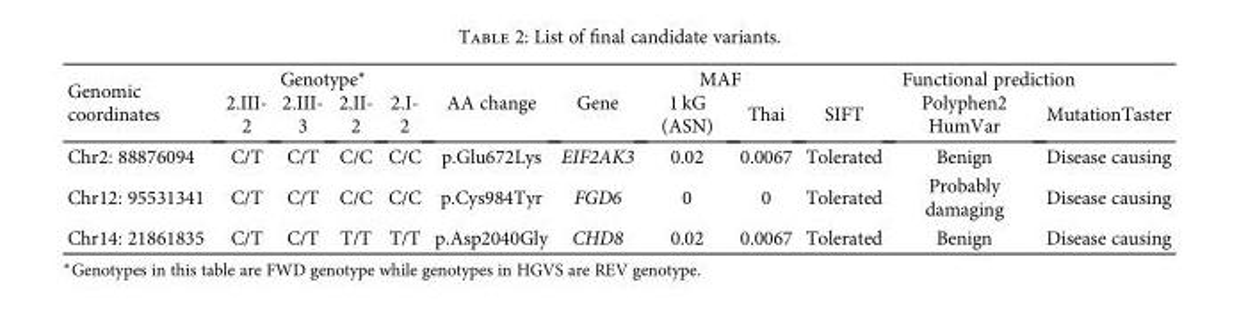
<table><thead><tr><td rowspan="2">Genomic coordinates</td><td colspan="4">Genotype∗</td><td rowspan="2">AA change</td><td rowspan="2">Gene</td><td colspan="2">MAF</td><td colspan="3">Functional prediction</td></tr><tr><td>2.III- 2</td><td>2.III- 3</td><td>2.II- 2</td><td>2.I- 2</td><td>1 kG (ASN)</td><td>Thai</td><td>SIFT</td><td>Polyphen2 HumVar</td><td>MutationTaster</td></tr></thead><tbody><tr><td>Chr2: 88876094</td><td>C/T</td><td>C/T</td><td>C/C</td><td>C/C</td><td>p.Glu672Lys</td><td>EIF2AK3</td><td>0.02</td><td>0.0067</td><td>Tolerated</td><td>Benign</td><td>Disease causing</td></tr><tr><td>Chr12: 95531341</td><td>C/T</td><td>C/T</td><td>C/C</td><td>C/C</td><td>p.Cys984Tyr</td><td>FGD6</td><td>0</td><td>0</td><td>Tolerated</td><td>Probably damaging</td><td>Disease causing</td></tr><tr><td>Chr14: 21861835</td><td>C/T</td><td>C/T</td><td>T/T</td><td>T/T</td><td>p.Asp2040Gly</td><td>CHD8</td><td>0.02</td><td>0.0067</td><td>Tolerated</td><td>Benign</td><td>Disease causing</td></tr></tbody></table>